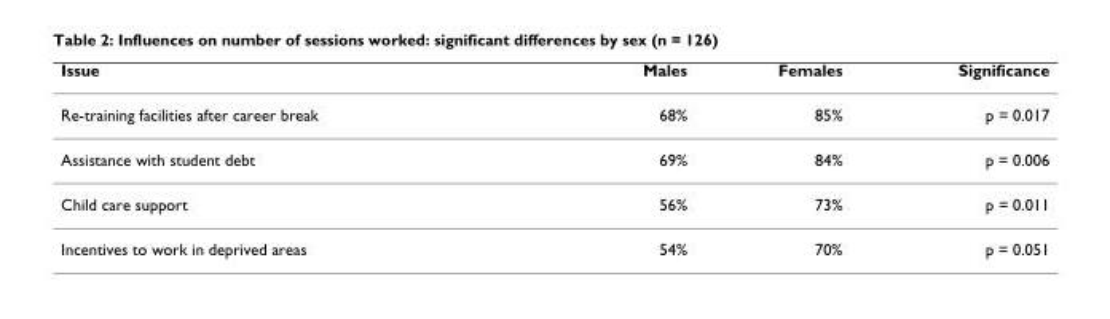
<table><tbody><tr><td>Issue</td><td>Males</td><td>Females</td><td>Significance</td></tr><tr><td>Re-training facilities after career break</td><td>68%</td><td>85%</td><td>p = 0.017</td></tr><tr><td>Assistance with student debt</td><td>69%</td><td>84%</td><td>p = 0.006</td></tr><tr><td>Child care support</td><td>56%</td><td>73%</td><td>p = 0.011</td></tr><tr><td>Incentives to work in deprived areas</td><td>54%</td><td>70%</td><td>p = 0.051</td></tr></tbody></table>